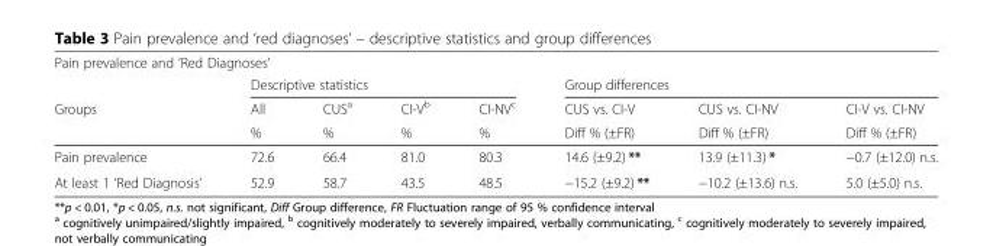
<table><thead><tr><td colspan="8">Pain prevalence and ‘Red Diagnoses’</td></tr><tr><td rowspan="3">Groups</td><td colspan="4">Descriptive statistics</td><td colspan="3">Group differences</td></tr><tr><td rowspan="2">All %</td><td rowspan="2">CUS<sup>a</sup> %</td><td rowspan="2">CI-V<sup>b</sup> %</td><td rowspan="2">CI-NV<sup>c</sup> %</td><td rowspan="2">CUS vs. CI-V Diff % (±FR)</td><td rowspan="2">CUS vs. CI-NV Diff % (±FR)</td><td rowspan="2">CI-V vs. CI-NV Diff % (±FR)</td></tr><tr></tr></thead><tbody><tr><td>Pain prevalence</td><td>72.6</td><td>66.4</td><td>81.0</td><td>80.3</td><td>14.6 (±9.2) **</td><td>13.9 (±11.3) *</td><td>−0.7 (±12.0) n.s.</td></tr><tr><td>At least 1 ‘Red Diagnosis’</td><td>52.9</td><td>58.7</td><td>43.5</td><td>48.5</td><td>−15.2 (±9.2) **</td><td>−10.2 (±13.6) n.s.</td><td>5.0 (±5.0) n.s.</td></tr></tbody></table>